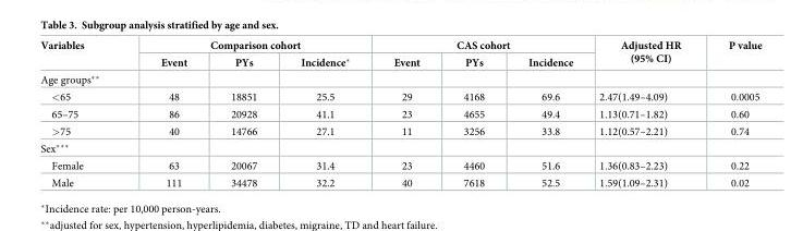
<table><thead><tr><td rowspan="2">Variables</td><td colspan="3">Comparison cohort</td><td colspan="3">CAS cohort</td><td rowspan="2">Adjusted HR (95% CI)</td><td rowspan="2">P value</td></tr><tr><td>Event</td><td>PYs</td><td>Incidence*</td><td>Event</td><td>PYs</td><td>Incidence</td></tr></thead><tbody><tr><td colspan="9">Age groups**</td></tr><tr><td>&lt;65</td><td>48</td><td>18851</td><td>25.5</td><td>29</td><td>4168</td><td>69.6</td><td>2.47(1.49–4.09)</td><td>0.0005</td></tr><tr><td>65–75</td><td>86</td><td>20928</td><td>41.1</td><td>23</td><td>4655</td><td>49.4</td><td>1.13(0.71–1.82)</td><td>0.60</td></tr><tr><td>&gt;75</td><td>40</td><td>14766</td><td>27.1</td><td>11</td><td>3256</td><td>33.8</td><td>1.12(0.57–2.21)</td><td>0.74</td></tr><tr><td colspan="9">Sex***</td></tr><tr><td>Female</td><td>63</td><td>20067</td><td>31.4</td><td>23</td><td>4460</td><td>51.6</td><td>1.36(0.83–2.23)</td><td>0.22</td></tr><tr><td>Male</td><td>111</td><td>34478</td><td>32.2</td><td>40</td><td>7618</td><td>52.5</td><td>1.59(1.09–2.31)</td><td>0.02</td></tr></tbody></table>